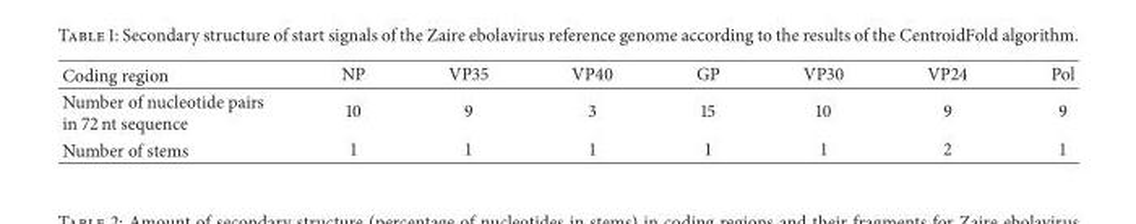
<table><thead><tr><td>Coding region</td><td>NP</td><td>VP35</td><td>VP40</td><td>GP</td><td>VP30</td><td>VP24</td><td>Pol</td></tr></thead><tbody><tr><td>Number of nucleotide pairs in 72 nt sequence</td><td>10</td><td>9</td><td>3</td><td>15</td><td>10</td><td>9</td><td>9</td></tr><tr><td>Number of stems</td><td>1</td><td>1</td><td>1</td><td>1</td><td>1</td><td>2</td><td>1</td></tr></tbody></table>